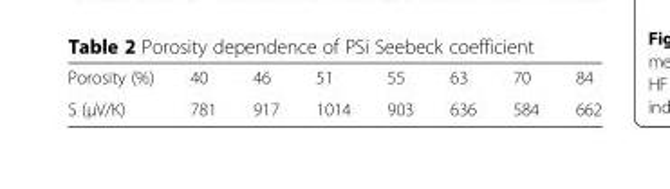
<table><tbody><tr><td>Porosity (%)</td><td>40</td><td>46</td><td>51</td><td>55</td><td>63</td><td>70</td><td>84</td></tr><tr><td>S (μV/Κ)</td><td>781</td><td>917</td><td>1014</td><td>903</td><td>636</td><td>584</td><td>662</td></tr></tbody></table>